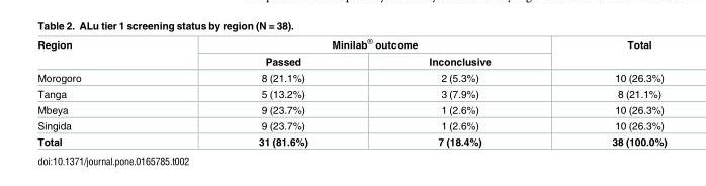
<table><thead><tr><td rowspan="2">Region</td><td colspan="2">Minilab<sup>®</sup> outcome</td><td rowspan="2">Total</td></tr><tr><td>Passed</td><td>Inconclusive</td></tr></thead><tbody><tr><td>Morogoro</td><td>8 (21.1%)</td><td>2 (5.3%)</td><td>10 (26.3%)</td></tr><tr><td>Tanga</td><td>5 (13.2%)</td><td>3 (7.9%)</td><td>8 (21.1%)</td></tr><tr><td>Mbeya</td><td>9 (23.7%)</td><td>1 (2.6%)</td><td>10 (26.3%)</td></tr><tr><td>Singida</td><td>9 (23.7%)</td><td>1 (2.6%)</td><td>10 (26.3%)</td></tr><tr><td>Total</td><td>31 (81.6%)</td><td>7 (18.4%)</td><td>38 (100.0%)</td></tr></tbody></table>